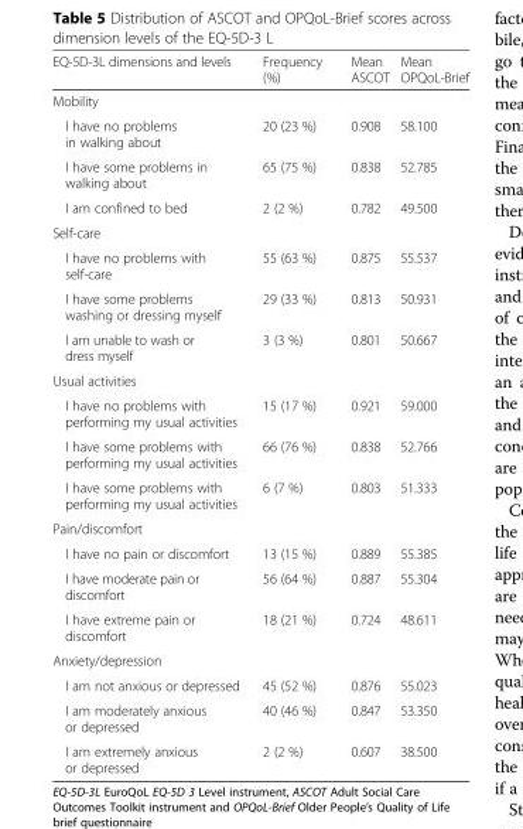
<table><thead><tr><td>EQ-5D-3L dimensions and levels</td><td>Frequency (%)</td><td>Mean ASCOT</td><td>Mean OPQoL-Brief</td></tr></thead><tbody><tr><td colspan="4">Mobility</td></tr><tr><td>I have no problems in walking about</td><td>20 (23 %)</td><td>0.908</td><td>58.100</td></tr><tr><td>I have some problems in walking about</td><td>65 (75 %)</td><td>0.838</td><td>52.785</td></tr><tr><td>I am confined to bed</td><td>2 (2 %)</td><td>0.782</td><td>49.500</td></tr><tr><td colspan="4">Self-care</td></tr><tr><td>I have no problems with self-care</td><td>55 (63 %)</td><td>0.875</td><td>55.537</td></tr><tr><td>I have some problems washing or dressing myself</td><td>29 (33 %)</td><td>0.813</td><td>50.931</td></tr><tr><td>I am unable to wash or dress myself</td><td>3 (3 %)</td><td>0.801</td><td>50.667</td></tr><tr><td colspan="4">Usual activities</td></tr><tr><td>I have no problems with performing my usual activities</td><td>15 (17 %)</td><td>0.921</td><td>59.000</td></tr><tr><td>I have some problems with performing my usual activities</td><td>66 (76 %)</td><td>0.838</td><td>52.766</td></tr><tr><td>I have some problems with performing my usual activities</td><td>6 (7 %)</td><td>0.803</td><td>51.333</td></tr><tr><td colspan="4">Pain/discomfort</td></tr><tr><td>I have no pain or discomfort</td><td>13 (15 %)</td><td>0.889</td><td>55.385</td></tr><tr><td>I have moderate pain or discomfort</td><td>56 (64 %)</td><td>0.887</td><td>55.304</td></tr><tr><td>I have extreme pain or discomfort</td><td>18 (21 %)</td><td>0.724</td><td>48.611</td></tr><tr><td colspan="4">Anxiety/depression</td></tr><tr><td>I am not anxious or depressed</td><td>45 (52 %)</td><td>0.876</td><td>55.023</td></tr><tr><td>I am moderately anxious or depressed</td><td>40 (46 %)</td><td>0.847</td><td>53.350</td></tr><tr><td>I am extremely anxious or depressed</td><td>2 (2 %)</td><td>0.607</td><td>38.500</td></tr></tbody></table>